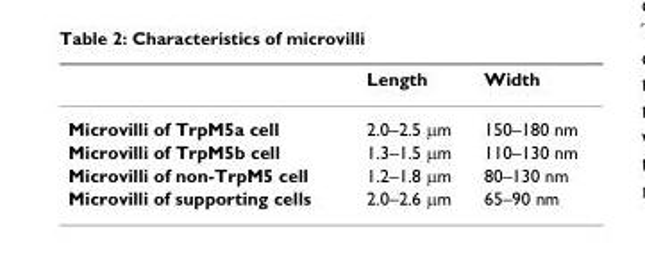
<table><thead><tr><td></td><td>Length</td><td>Width</td></tr></thead><tbody><tr><td>Microvilli of TrpM5a cell</td><td>2.0–2.5 μm</td><td>150–180 nm</td></tr><tr><td>Microvilli of TrpM5b cell</td><td>1.3–1.5 μm</td><td>110–130 nm</td></tr><tr><td>Microvilli of non-TrpM5 cell</td><td>1.2–1.8 μm</td><td>80–130 nm</td></tr><tr><td>Microvilli of supporting cells</td><td>2.0–2.6 μm</td><td>65–90 nm</td></tr></tbody></table>